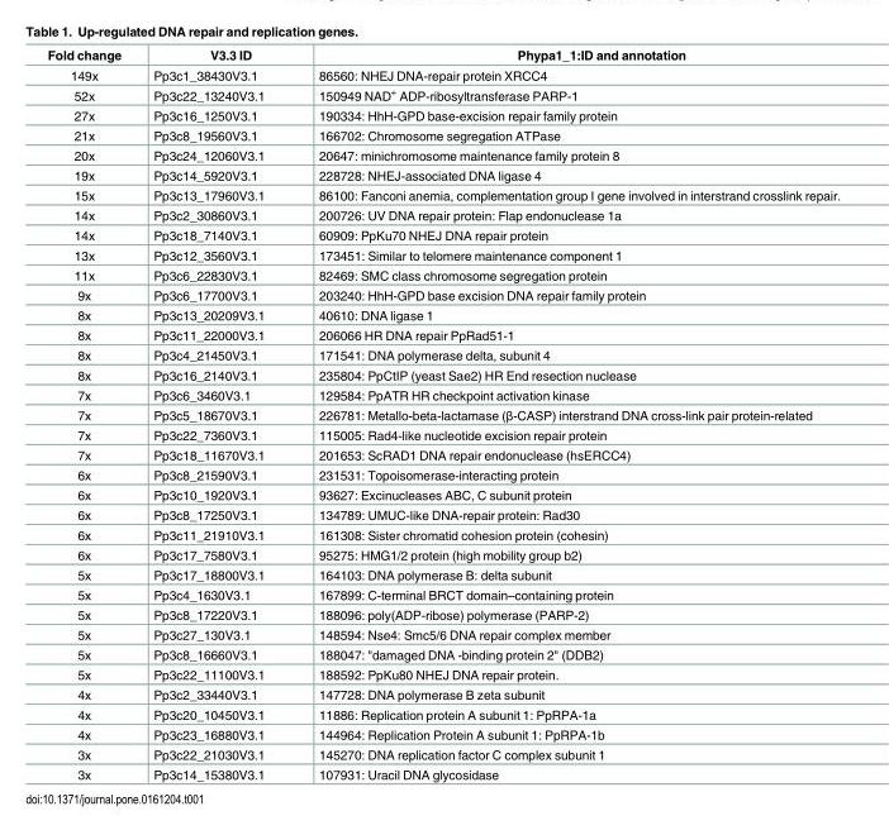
<table><thead><tr><td>Fold change</td><td>V3.3 ID</td><td>Phypa1_1:ID and annotation</td></tr></thead><tbody><tr><td>149x</td><td>Pp3c1_38430V3.1</td><td>86560: NHEJ DNA-repair protein XRCC4</td></tr><tr><td>52x</td><td>Pp3c22_13240V3.1</td><td>150949 NAD<sup>+</sup> ADP-ribosyltransferase PARP-1</td></tr><tr><td>27x</td><td>Pp3c16_1250V3.1</td><td>190334: HhH-GPD base-excision repair family protein</td></tr><tr><td>21x</td><td>Pp3c8_19560V3.1</td><td>166702: Chromosome segregation ATPase</td></tr><tr><td>20x</td><td>Pp3c24_12060V3.1</td><td>20647: minichromosome maintenance family protein 8</td></tr><tr><td>19x</td><td>Pp3c14_5920V3.1</td><td>228728: NHEJ-associated DNA ligase 4</td></tr><tr><td>15x</td><td>Pp3c13_17960V3.1</td><td>86100: Fanconi anemia, complementation group I gene involved in interstrand crosslink repair.</td></tr><tr><td>14x</td><td>Pp3c2_30860V3.1</td><td>200726: UV DNA repair protein: Flap endonuclease 1a</td></tr><tr><td>14x</td><td>Pp3c18_7140V3.1</td><td>60909: PpKu70 NHEJ DNA repair protein</td></tr><tr><td>13x</td><td>Pp3c12_3560V3.1</td><td>173451: Similar to telomere maintenance component 1</td></tr><tr><td>11x</td><td>Pp3c6_22830V3.1</td><td>82469: SMC class chromosome segregation protein</td></tr><tr><td>9x</td><td>Pp3c6_17700V3.1</td><td>203240: HhH-GPD base excision DNA repair family protein</td></tr><tr><td>8x</td><td>Pp3c13_20209V3.1</td><td>40610: DNA ligase 1</td></tr><tr><td>8x</td><td>Pp3c11_22000V3.1</td><td>206066 HR DNA repair PpRad51-1</td></tr><tr><td>8x</td><td>Pp3c4_21450V3.1</td><td>171541: DNA polymerase delta, subunit 4</td></tr><tr><td>8x</td><td>Pp3c16_2140V3.1</td><td>235804: PpCtIP (yeast Sae2) HR End resection nuclease</td></tr><tr><td>7x</td><td>Pp3c6_3460V3.1</td><td>129584: PpATR HR checkpoint activation kinase</td></tr><tr><td>7x</td><td>Pp3c5_18670V3.1</td><td>226781: Metallo-beta-lactamase (β-CASP) interstrand DNA cross-link pair protein-related</td></tr><tr><td>7x</td><td>Pp3c22_7360V3.1</td><td>115005: Rad4-like nucleotide excision repair protein</td></tr><tr><td>7x</td><td>Pp3c18_11670V3.1</td><td>201653: ScRAD1 DNA repair endonuclease (hsERCC4)</td></tr><tr><td>6x</td><td>Pp3c8_21590V3.1</td><td>231531: Topoisomerase-interacting protein</td></tr><tr><td>6x</td><td>Pp3c10_1920V3.1</td><td>93627: Excinucleases ABC, C subunit protein</td></tr><tr><td>6x</td><td>Pp3c8_17250V3.1</td><td>134789: UMUC-like DNA-repair protein: Rad30</td></tr><tr><td>6x</td><td>Pp3c11_21910V3.1</td><td>161308: Sister chromatid cohesion protein (cohesin)</td></tr><tr><td>6x</td><td>Pp3c17_7580V3.1</td><td>95275: HMG1/2 protein (high mobility group b2)</td></tr><tr><td>5x</td><td>Pp3c17_18800V3.1</td><td>164103: DNA polymerase B: delta subunit</td></tr><tr><td>5x</td><td>Pp3c4_1630V3.1</td><td>167899: C-terminal BRCT domain–containing protein</td></tr><tr><td>5x</td><td>Pp3c8_17220V3.1</td><td>188096: poly(ADP-ribose) polymerase (PARP-2)</td></tr><tr><td>5x</td><td>Pp3c27_130V3.1</td><td>148594: Nse4: Smc5/6 DNA repair complex member</td></tr><tr><td>5x</td><td>Pp3c8_16660V3.1</td><td>188047: &quot;damaged DNA -binding protein 2&quot; (DDB2)</td></tr><tr><td>5x</td><td>Pp3c22_11100V3.1</td><td>188592: PpKu80 NHEJ DNA repair protein.</td></tr><tr><td>4x</td><td>Pp3c2_33440V3.1</td><td>147728: DNA polymerase B zeta subunit</td></tr><tr><td>4x</td><td>Pp3c20_10450V3.1</td><td>11886: Replication protein A subunit 1: PpRPA-1a</td></tr><tr><td>4x</td><td>Pp3c23_16880V3.1</td><td>144964: Replication Protein A subunit 1: PpRPA-1b</td></tr><tr><td>3x</td><td>Pp3c22_21030V3.1</td><td>145270: DNA replication factor C complex subunit 1</td></tr><tr><td>3x</td><td>Pp3c14_15380V3.1</td><td>107931: Uracil DNA glycosidase</td></tr></tbody></table>